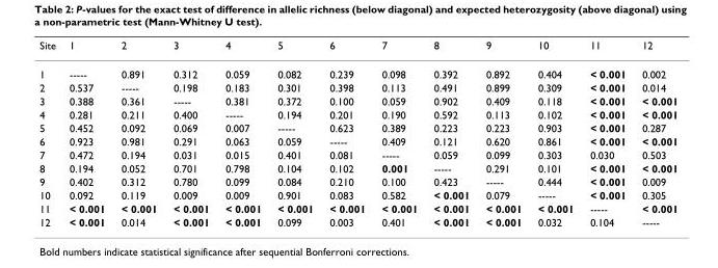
<table><thead><tr><td>Site</td><td>1</td><td>2</td><td>3</td><td>4</td><td>5</td><td>6</td><td>7</td><td>8</td><td>9</td><td>10</td><td>11</td><td>12</td></tr></thead><tbody><tr><td>1</td><td>-----</td><td>0.891</td><td>0.312</td><td>0.059</td><td>0.082</td><td>0.239</td><td>0.098</td><td>0.392</td><td>0.892</td><td>0.404</td><td>&lt; 0.001</td><td>0.002</td></tr><tr><td>2</td><td>0.537</td><td>-----</td><td>0.198</td><td>0.183</td><td>0.301</td><td>0.398</td><td>0.113</td><td>0.491</td><td>0.899</td><td>0.309</td><td>&lt; 0.001</td><td>0.014</td></tr><tr><td>3</td><td>0.388</td><td>0.361</td><td>-----</td><td>0.381</td><td>0.372</td><td>0.100</td><td>0.059</td><td>0.902</td><td>0.409</td><td>0.118</td><td>&lt; 0.001</td><td>&lt; 0.001</td></tr><tr><td>4</td><td>0.281</td><td>0.211</td><td>0.400</td><td>-----</td><td>0.194</td><td>0.201</td><td>0.190</td><td>0.592</td><td>0.113</td><td>0.102</td><td>&lt; 0.001</td><td>&lt; 0.001</td></tr><tr><td>5</td><td>0.452</td><td>0.092</td><td>0.069</td><td>0.007</td><td>-----</td><td>0.623</td><td>0.389</td><td>0.223</td><td>0.223</td><td>0.903</td><td>&lt; 0.001</td><td>0.287</td></tr><tr><td>6</td><td>0.923</td><td>0.981</td><td>0.291</td><td>0.063</td><td>0.059</td><td>-----</td><td>0.409</td><td>0.121</td><td>0.620</td><td>0.861</td><td>&lt; 0.001</td><td>&lt; 0.001</td></tr><tr><td>7</td><td>0.472</td><td>0.194</td><td>0.031</td><td>0.015</td><td>0.401</td><td>0.081</td><td>-----</td><td>0.059</td><td>0.099</td><td>0.303</td><td>0.030</td><td>0.503</td></tr><tr><td>8</td><td>0.194</td><td>0.052</td><td>0.701</td><td>0.798</td><td>0.104</td><td>0.102</td><td>0.001</td><td>-----</td><td>0.291</td><td>0.101</td><td>&lt; 0.001</td><td>&lt; 0.001</td></tr><tr><td>9</td><td>0.402</td><td>0.312</td><td>0.780</td><td>0.099</td><td>0.084</td><td>0.210</td><td>0.100</td><td>0.423</td><td>-----</td><td>0.444</td><td>&lt; 0.001</td><td>0.009</td></tr><tr><td>10</td><td>0.092</td><td>0.119</td><td>0.009</td><td>0.009</td><td>0.901</td><td>0.083</td><td>0.582</td><td>&lt; 0.001</td><td>0.079</td><td>-----</td><td>&lt; 0.001</td><td>0.305</td></tr><tr><td>11</td><td>&lt; 0.001</td><td>&lt; 0.001</td><td>&lt; 0.001</td><td>&lt; 0.001</td><td>&lt; 0.001</td><td>&lt; 0.001</td><td>&lt; 0.001</td><td>&lt; 0.001</td><td>&lt; 0.001</td><td>&lt; 0.001</td><td>-----</td><td>&lt; 0.001</td></tr><tr><td>12</td><td>&lt; 0.001</td><td>0.014</td><td>&lt; 0.001</td><td>&lt; 0.001</td><td>0.099</td><td>0.003</td><td>0.401</td><td>&lt; 0.001</td><td>&lt; 0.001</td><td>0.032</td><td>0.104</td><td>-----</td></tr></tbody></table>